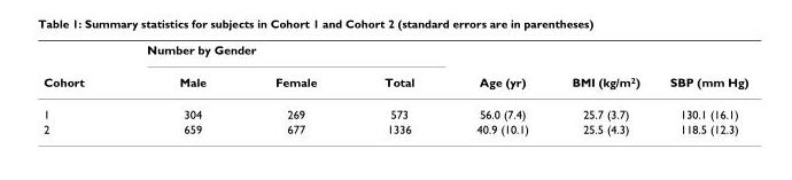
<table><thead><tr><td rowspan="2">Cohort</td><td colspan="3">Number by Gender</td><td rowspan="2">Age (yr)</td><td rowspan="2">BMI (kg/m2)</td><td rowspan="2">SBP (mm Hg)</td></tr><tr><td>Male</td><td>Female</td><td>Total</td></tr></thead><tbody><tr><td>1</td><td>304</td><td>269</td><td>573</td><td>56.0 (7.4)</td><td>25.7 (3.7)</td><td>130.1 (16.1)</td></tr><tr><td>2</td><td>659</td><td>677</td><td>1336</td><td>40.9 (10.1)</td><td>25.5 (4.3)</td><td>118.5 (12.3)</td></tr></tbody></table>